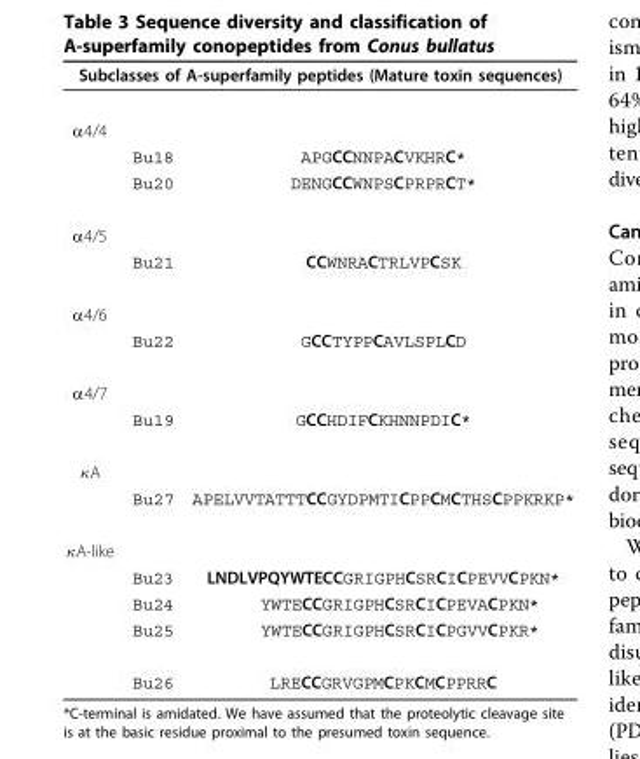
<table><thead><tr><td colspan="3">Subclasses of A-superfamily peptides (Mature toxin sequences)</td></tr><tr><td>α4/4</td><td></td><td></td></tr></thead><tbody><tr><td></td><td>Bu18</td><td>APGCCNNPACVKHRC*</td></tr><tr><td></td><td>Bu20</td><td>DENGCCWNPSCPRPRCT*</td></tr><tr><td colspan="3">α4/5</td></tr><tr><td></td><td>Bu21</td><td>CCWNRACTRLVPCSK</td></tr><tr><td colspan="3">α4/6</td></tr><tr><td></td><td>Bu22</td><td>GCCTYPPCAVLSPLCD</td></tr><tr><td colspan="3">α4/7</td></tr><tr><td></td><td>Bu19</td><td>GCCHDIFCKHNNPDIC*</td></tr><tr><td colspan="3">κA</td></tr><tr><td></td><td>Bu27</td><td>APELVVTATTTCCGYDPMTICPPCMCTHSCPPKRKP*</td></tr><tr><td colspan="3">κA-like</td></tr><tr><td></td><td>Bu23</td><td>LNDLVPQYWTECCGRIGPHCSRCICPEVVCPKN*</td></tr><tr><td></td><td>Bu24</td><td>YWTECCGRIGPHCSRCICPEVACPKN*</td></tr><tr><td></td><td>Bu25</td><td>YWTECCGRIGPHCSRCICPGVVCPKR*</td></tr><tr><td></td><td>Bu26</td><td>LRECCGRVGPMCPKCMCPPRRC</td></tr></tbody></table>